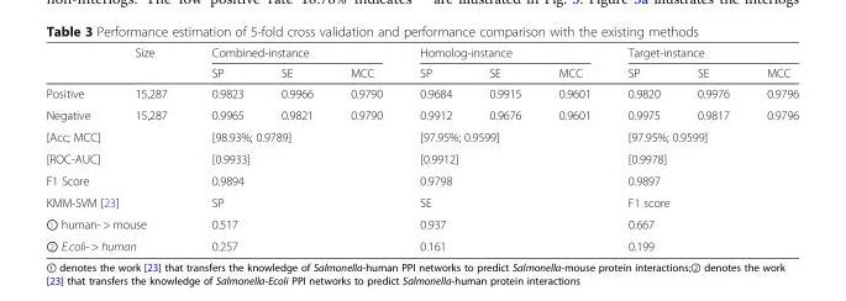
<table><thead><tr><td rowspan="2"></td><td rowspan="2">Size</td><td colspan="3">Combined-instance</td><td colspan="3">Homolog-instance</td><td colspan="3">Target-instance</td></tr><tr><td>SP</td><td>SE</td><td>MCC</td><td>SP</td><td>SE</td><td>MCC</td><td>SP</td><td>SE</td><td>MCC</td></tr></thead><tbody><tr><td>Positive</td><td>15,287</td><td>0.9823</td><td>0.9966</td><td>0.9790</td><td>0.9684</td><td>0.9915</td><td>0.9601</td><td>0.9820</td><td>0.9976</td><td>0.9796</td></tr><tr><td>Negative</td><td>15,287</td><td>0.9965</td><td>0.9821</td><td>0.9790</td><td>0.9912</td><td>0.9676</td><td>0.9601</td><td>0.9975</td><td>0.9817</td><td>0.9796</td></tr><tr><td colspan="2">[Acc; MCC]</td><td colspan="3">[98.93%; 0.9789]</td><td colspan="3">[97.95%; 0.9599]</td><td colspan="3">[97.95%; 0.9599]</td></tr><tr><td colspan="2">[ROC-AUC]</td><td colspan="3">[0.9933]</td><td colspan="3">[0.9912]</td><td colspan="3">[0.9978]</td></tr><tr><td colspan="2">F1 Score</td><td colspan="3">0.9894</td><td colspan="3">0.9798</td><td colspan="3">0.9897</td></tr><tr><td colspan="2">KMM-SVM [23]</td><td colspan="3">SP</td><td colspan="3">SE</td><td colspan="3">F1 score</td></tr><tr><td colspan="2">① human- &gt; mouse</td><td colspan="3">0.517</td><td colspan="3">0.937</td><td colspan="3">0.667</td></tr><tr><td colspan="2">② E.coli- &gt; human</td><td colspan="3">0.257</td><td colspan="3">0.161</td><td colspan="3">0.199</td></tr></tbody></table>